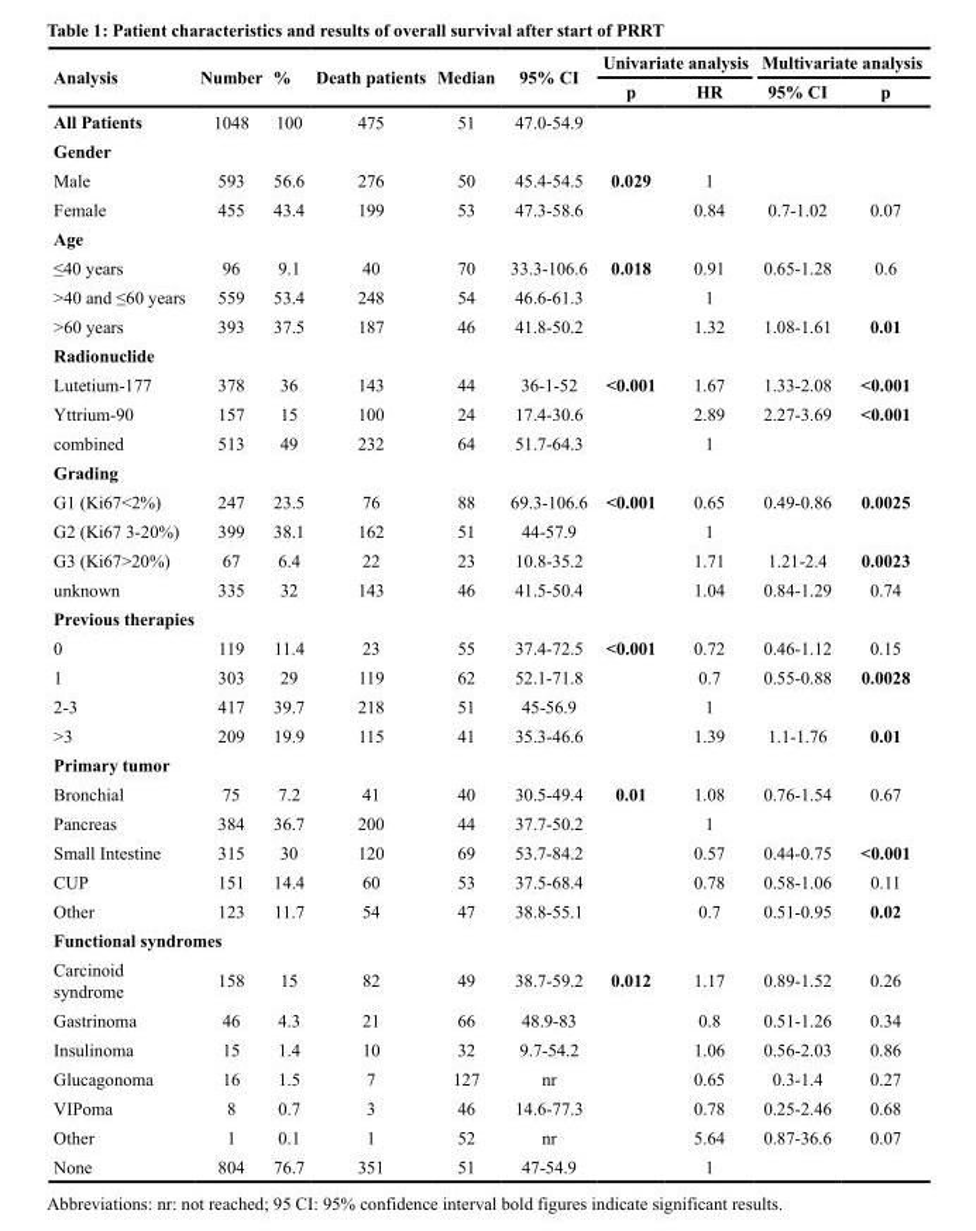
<table><thead><tr><td rowspan="2">Analysis</td><td rowspan="2">Number</td><td rowspan="2">%</td><td rowspan="2">Death patients</td><td rowspan="2">Median</td><td rowspan="2">95% CI</td><td colspan="2">Univariate analysis</td><td colspan="2">Multivariate analysis</td></tr><tr><td>p</td><td>HR</td><td>95% CI</td><td>p</td></tr></thead><tbody><tr><td>All Patients</td><td>1048</td><td>100</td><td>475</td><td>51</td><td>47.0-54.9</td><td></td><td></td><td></td><td></td></tr><tr><td colspan="10">Gender</td></tr><tr><td>Male</td><td>593</td><td>56.6</td><td>276</td><td>50</td><td>45.4-54.5</td><td>0.029</td><td>1</td><td></td><td></td></tr><tr><td>Female</td><td>455</td><td>43.4</td><td>199</td><td>53</td><td>47.3-58.6</td><td></td><td>0.84</td><td>0.7-1.02</td><td>0.07</td></tr><tr><td colspan="10">Age</td></tr><tr><td>≤40 years</td><td>96</td><td>9.1</td><td>40</td><td>70</td><td>33.3-106.6</td><td>0.018</td><td>0.91</td><td>0.65-1.28</td><td>0.6</td></tr><tr><td>&gt;40 and ≤60 years</td><td>559</td><td>53.4</td><td>248</td><td>54</td><td>46.6-61.3</td><td></td><td>1</td><td></td><td></td></tr><tr><td>&gt;60 years</td><td>393</td><td>37.5</td><td>187</td><td>46</td><td>41.8-50.2</td><td></td><td>1.32</td><td>1.08-1.61</td><td>0.01</td></tr><tr><td colspan="10">Radionuclide</td></tr><tr><td>Lutetium-177</td><td>378</td><td>36</td><td>143</td><td>44</td><td>36-1-52</td><td>&lt;0.001</td><td>1.67</td><td>1.33-2.08</td><td>&lt;0.001</td></tr><tr><td>Yttrium-90</td><td>157</td><td>15</td><td>100</td><td>24</td><td>17.4-30.6</td><td></td><td>2.89</td><td>2.27-3.69</td><td>&lt;0.001</td></tr><tr><td>combined</td><td>513</td><td>49</td><td>232</td><td>64</td><td>51.7-64.3</td><td></td><td>1</td><td></td><td></td></tr><tr><td colspan="10">Grading</td></tr><tr><td>G1 (Ki67&lt;2%)</td><td>247</td><td>23.5</td><td>76</td><td>88</td><td>69.3-106.6</td><td>&lt;0.001</td><td>0.65</td><td>0.49-0.86</td><td>0.0025</td></tr><tr><td>G2 (Ki67 3-20%)</td><td>399</td><td>38.1</td><td>162</td><td>51</td><td>44-57.9</td><td></td><td>1</td><td></td><td></td></tr><tr><td>G3 (Ki67&gt;20%)</td><td>67</td><td>6.4</td><td>22</td><td>23</td><td>10.8-35.2</td><td></td><td>1.71</td><td>1.21-2.4</td><td>0.0023</td></tr><tr><td>unknown</td><td>335</td><td>32</td><td>143</td><td>46</td><td>41.5-50.4</td><td></td><td>1.04</td><td>0.84-1.29</td><td>0.74</td></tr><tr><td colspan="10">Previous therapies</td></tr><tr><td>0</td><td>119</td><td>11.4</td><td>23</td><td>55</td><td>37.4-72.5</td><td>&lt;0.001</td><td>0.72</td><td>0.46-1.12</td><td>0.15</td></tr><tr><td>1</td><td>303</td><td>29</td><td>119</td><td>62</td><td>52.1-71.8</td><td></td><td>0.7</td><td>0.55-0.88</td><td>0.0028</td></tr><tr><td>2-3</td><td>417</td><td>39.7</td><td>218</td><td>51</td><td>45-56.9</td><td></td><td>1</td><td></td><td></td></tr><tr><td>&gt;3</td><td>209</td><td>19.9</td><td>115</td><td>41</td><td>35.3-46.6</td><td></td><td>1.39</td><td>1.1-1.76</td><td>0.01</td></tr><tr><td colspan="10">Primary tumor</td></tr><tr><td>Bronchial</td><td>75</td><td>7.2</td><td>41</td><td>40</td><td>30.5-49.4</td><td>0.01</td><td>1.08</td><td>0.76-1.54</td><td>0.67</td></tr><tr><td>Pancreas</td><td>384</td><td>36.7</td><td>200</td><td>44</td><td>37.7-50.2</td><td></td><td>1</td><td></td><td></td></tr><tr><td>Small Intestine</td><td>315</td><td>30</td><td>120</td><td>69</td><td>53.7-84.2</td><td></td><td>0.57</td><td>0.44-0.75</td><td>&lt;0.001</td></tr><tr><td>CUP</td><td>151</td><td>14.4</td><td>60</td><td>53</td><td>37.5-68.4</td><td></td><td>0.78</td><td>0.58-1.06</td><td>0.11</td></tr><tr><td>Other</td><td>123</td><td>11.7</td><td>54</td><td>47</td><td>38.8-55.1</td><td></td><td>0.7</td><td>0.51-0.95</td><td>0.02</td></tr><tr><td colspan="10">Functional syndromes</td></tr><tr><td>Carcinoid syndrome</td><td>158</td><td>15</td><td>82</td><td>49</td><td>38.7-59.2</td><td>0.012</td><td>1.17</td><td>0.89-1.52</td><td>0.26</td></tr><tr><td>Gastrinoma</td><td>46</td><td>4.3</td><td>21</td><td>66</td><td>48.9-83</td><td></td><td>0.8</td><td>0.51-1.26</td><td>0.34</td></tr><tr><td>Insulinoma</td><td>15</td><td>1.4</td><td>10</td><td>32</td><td>9.7-54.2</td><td></td><td>1.06</td><td>0.56-2.03</td><td>0.86</td></tr><tr><td>Glucagonoma</td><td>16</td><td>1.5</td><td>7</td><td>127</td><td>nr</td><td></td><td>0.65</td><td>0.3-1.4</td><td>0.27</td></tr><tr><td>VIPoma</td><td>8</td><td>0.7</td><td>3</td><td>46</td><td>14.6-77.3</td><td></td><td>0.78</td><td>0.25-2.46</td><td>0.68</td></tr><tr><td>Other</td><td>1</td><td>0.1</td><td>1</td><td>52</td><td>nr</td><td></td><td>5.64</td><td>0.87-36.6</td><td>0.07</td></tr><tr><td>None</td><td>804</td><td>76.7</td><td>351</td><td>51</td><td>47-54.9</td><td></td><td>1</td><td></td><td></td></tr></tbody></table>